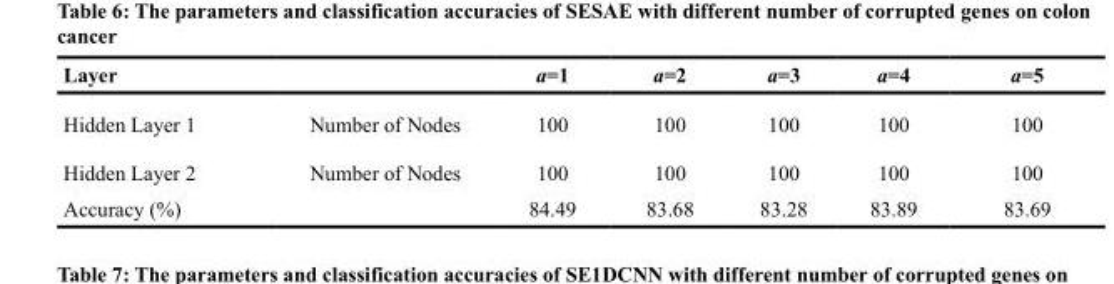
<table><thead><tr><td>Layer</td><td></td><td>a=1</td><td>a=2</td><td>a=3</td><td>a=4</td><td>a=5</td></tr></thead><tbody><tr><td>Hidden Layer 1</td><td>Number of Nodes</td><td>100</td><td>100</td><td>100</td><td>100</td><td>100</td></tr><tr><td>Hidden Layer 2</td><td>Number of Nodes</td><td>100</td><td>100</td><td>100</td><td>100</td><td>100</td></tr><tr><td colspan="2">Accuracy (%)</td><td>84.49</td><td>83.68</td><td>83.28</td><td>83.89</td><td>83.69</td></tr></tbody></table>